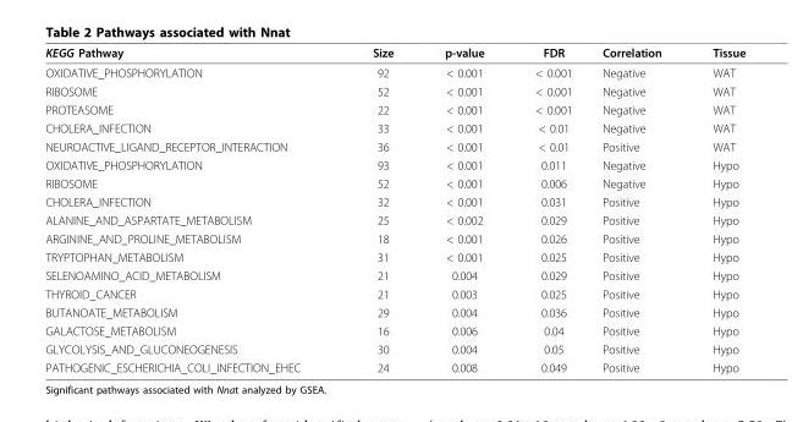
<table><thead><tr><td>KEGG Pathway</td><td>Size</td><td>p-value</td><td>FDR</td><td>Correlation</td><td>Tissue</td></tr></thead><tbody><tr><td>OXIDATIVE_PHOSPHORYLATION</td><td>92</td><td>&lt; 0.001</td><td>&lt; 0.001</td><td>Negative</td><td>WAT</td></tr><tr><td>RIBOSOME</td><td>52</td><td>&lt; 0.001</td><td>&lt; 0.001</td><td>Negative</td><td>WAT</td></tr><tr><td>PROTEASOME</td><td>22</td><td>&lt; 0.001</td><td>&lt; 0.001</td><td>Negative</td><td>WAT</td></tr><tr><td>CHOLERA_INFECTION</td><td>33</td><td>&lt; 0.001</td><td>&lt; 0.01</td><td>Negative</td><td>WAT</td></tr><tr><td>NEUROACTIVE_LIGAND_RECEPTOR_INTERACTION</td><td>36</td><td>&lt; 0.001</td><td>&lt; 0.01</td><td>Positive</td><td>WAT</td></tr><tr><td>OXIDATIVE_PHOSPHORYLATION</td><td>93</td><td>&lt; 0.001</td><td>0.011</td><td>Negative</td><td>Hypo</td></tr><tr><td>RIBOSOME</td><td>52</td><td>&lt; 0.001</td><td>0.006</td><td>Negative</td><td>Hypo</td></tr><tr><td>CHOLERA_INFECTION</td><td>32</td><td>&lt; 0.001</td><td>0.031</td><td>Positive</td><td>Hypo</td></tr><tr><td>ALANINE_AND_ASPARTATE_METABOLISM</td><td>25</td><td>&lt; 0.002</td><td>0.029</td><td>Positive</td><td>Hypo</td></tr><tr><td>ARGININE_AND_PROLINE_METABOLISM</td><td>18</td><td>&lt; 0.001</td><td>0.026</td><td>Positive</td><td>Hypo</td></tr><tr><td>TRYPTOPHAN_METABOLISM</td><td>31</td><td>&lt; 0.001</td><td>0.025</td><td>Positive</td><td>Hypo</td></tr><tr><td>SELENOAMINO_ACID_METABOLISM</td><td>21</td><td>0.004</td><td>0.029</td><td>Positive</td><td>Hypo</td></tr><tr><td>THYROID_CANCER</td><td>21</td><td>0.003</td><td>0.025</td><td>Positive</td><td>Hypo</td></tr><tr><td>BUTANOATE_METABOLISM</td><td>29</td><td>0.004</td><td>0.036</td><td>Positive</td><td>Hypo</td></tr><tr><td>GALACTOSE_METABOLISM</td><td>16</td><td>0.006</td><td>0.04</td><td>Positive</td><td>Hypo</td></tr><tr><td>GLYCOLYSIS_AND_GLUCONEOGENESIS</td><td>30</td><td>0.004</td><td>0.05</td><td>Positive</td><td>Hypo</td></tr><tr><td>PATHOGENIC_ESCHERICHIA_COLI_INFECTION_EHEC</td><td>24</td><td>0.008</td><td>0.049</td><td>Positive</td><td>Hypo</td></tr></tbody></table>